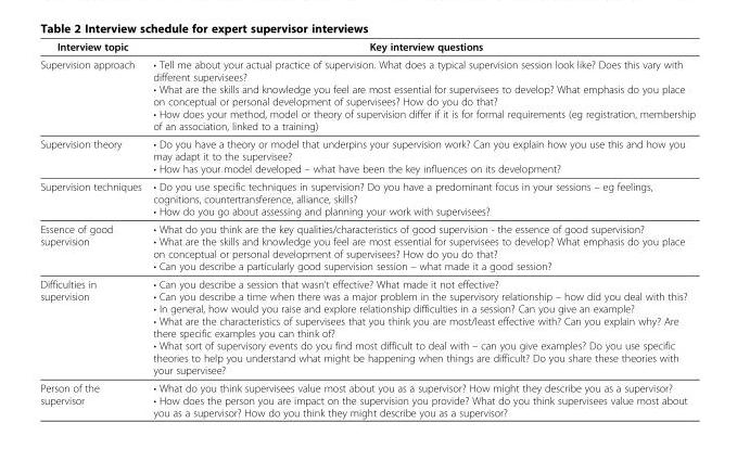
<table><thead><tr><td>Interview topic</td><td>Key interview questions</td></tr></thead><tbody><tr><td>Supervision approach</td><td>• Tell me about your actual practice of supervision. What does a typical supervision session look like? Does this vary with different supervisees? • What are the skills and knowledge you feel are most essential for supervisees to develop? What emphasis do you place on conceptual or personal development of supervisees? How do you do that? • How does your method, model or theory of supervision differ if it is for formal requirements (eg registration, membership of an association, linked to a training)</td></tr><tr><td>Supervision theory</td><td>• Do you have a theory or model that underpins your supervision work? Can you explain how you use this and how you may adapt it to the supervisee? • How has your model developed – what have been the key influences on its development?</td></tr><tr><td>Supervision techniques</td><td>• Do you use specific techniques in supervision? Do you have a predominant focus in your sessions – eg feelings, cognitions, countertransference, alliance, skills? • How do you go about assessing and planning your work with supervisees?</td></tr><tr><td>Essence of good supervision</td><td>• What do you think are the key qualities/characteristics of good supervision - the essence of good supervision? • What are the skills and knowledge you feel are most essential for supervisees to develop? What emphasis do you place on conceptual or personal development of supervisees? How do you do that? • Can you describe a particularly good supervision session – what made it a good session?</td></tr><tr><td>Difficulties in supervision</td><td>• Can you describe a session that wasn’t effective? What made it not effective? • Can you describe a time when there was a major problem in the supervisory relationship – how did you deal with this? • In general, how would you raise and explore relationship difficulties in a session? Can you give an example? • What are the characteristics of supervisees that you think you are most/least effective with? Can you explain why? Are there specific examples you can think of? • What sort of supervisory events do you find most difficult to deal with – can you give examples? Do you use specific theories to help you understand what might be happening when things are difficult? Do you share these theories with your supervisee?</td></tr><tr><td>Person of the supervisor</td><td>• What do you think supervisees value most about you as a supervisor? How might they describe you as a supervisor? • How does the person you are impact on the supervision you provide? What do you think supervisees value most about you as a supervisor? How do you think they might describe you as a supervisor?</td></tr></tbody></table>